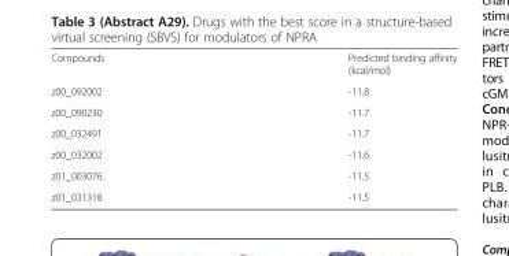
<table><tbody><tr><td>Compounds</td><td>Predicted binding affinity (kcal/mol)</td></tr><tr><td>z00_092002</td><td>-11.8</td></tr><tr><td>z00_090230</td><td>-11.7</td></tr><tr><td>z00_032491</td><td>-11.7</td></tr><tr><td>z00_032002</td><td>-11.6</td></tr><tr><td>z01_003076</td><td>-11.5</td></tr><tr><td>z01_031318</td><td>-11.5</td></tr></tbody></table>